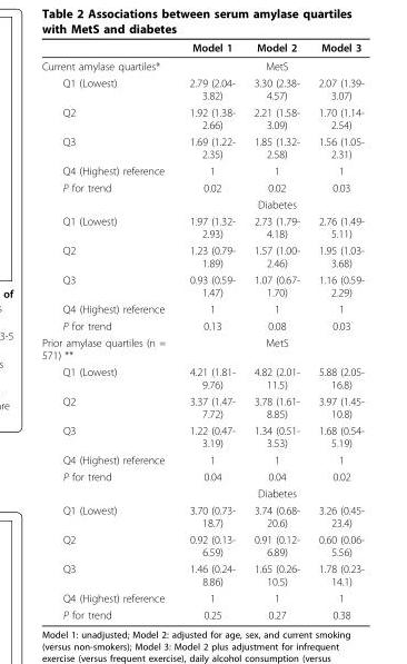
<table><thead><tr><td></td><td>Model 1</td><td>Model 2</td><td>Model 3</td></tr></thead><tbody><tr><td>Current amylase quartiles*</td><td colspan="3">MetS</td></tr><tr><td>Q1 (Lowest)</td><td>2.79 (2.04- 3.82)</td><td>3.30 (2.38- 4.57)</td><td>2.07 (1.39- 3.07)</td></tr><tr><td>Q2</td><td>1.92 (1.38- 2.66)</td><td>2.21 (1.58- 3.09)</td><td>1.70 (1.14- 2.54)</td></tr><tr><td>Q3</td><td>1.69 (1.22- 2.35)</td><td>1.85 (1.32- 2.58)</td><td>1.56 (1.05- 2.31)</td></tr><tr><td>Q4 (Highest) reference</td><td>1</td><td>1</td><td>1</td></tr><tr><td rowspan="2">P for trend</td><td>0.02</td><td>0.02</td><td>0.03</td></tr><tr><td colspan="3">Diabetes</td></tr><tr><td>Q1 (Lowest)</td><td>1.97 (1.32- 2.93)</td><td>2.73 (1.79- 4.18)</td><td>2.76 (1.49- 5.11)</td></tr><tr><td>Q2</td><td>1.23 (0.79- 1.89)</td><td>1.57 (1.00- 2.46)</td><td>1.95 (1.03- 3.68)</td></tr><tr><td>Q3</td><td>0.93 (0.59- 1.47)</td><td>1.07 (0.67- 1.70)</td><td>1.16 (0.59- 2.29)</td></tr><tr><td>Q4 (Highest) reference</td><td>1</td><td>1</td><td>1</td></tr><tr><td>P for trend</td><td>0.13</td><td>0.08</td><td>0.03</td></tr><tr><td>Prior amylase quartiles (n = 571) **</td><td colspan="3">MetS</td></tr><tr><td>Q1 (Lowest)</td><td>4.21 (1.81- 9.76)</td><td>4.82 (2.01- 11.5)</td><td>5.88 (2.05- 16.8)</td></tr><tr><td>Q2</td><td>3.37 (1.47- 7.72)</td><td>3.78 (1.61- 8.85)</td><td>3.97 (1.45- 10.8)</td></tr><tr><td>Q3</td><td>1.22 (0.47- 3.19)</td><td>1.34 (0.51- 3.53)</td><td>1.68 (0.54- 5.19)</td></tr><tr><td>Q4 (Highest) reference</td><td>1</td><td>1</td><td>1</td></tr><tr><td rowspan="2">P for trend</td><td>0.04</td><td>0.04</td><td>0.02</td></tr><tr><td colspan="3">Diabetes</td></tr><tr><td>Q1 (Lowest)</td><td>3.70 (0.73- 18.7)</td><td>3.74 (0.68- 20.6)</td><td>3.26 (0.45- 23.4)</td></tr><tr><td>Q2</td><td>0.92 (0.13- 6.59)</td><td>0.91 (0.12- 6.89)</td><td>0.60 (0.06- 5.56)</td></tr><tr><td>Q3</td><td>1.46 (0.24- 8.86)</td><td>1.65 (0.26- 10.5)</td><td>1.78 (0.23- 14.1)</td></tr><tr><td>Q4 (Highest) reference</td><td>1</td><td>1</td><td>1</td></tr><tr><td>P for trend</td><td>0.25</td><td>0.27</td><td>0.38</td></tr></tbody></table>